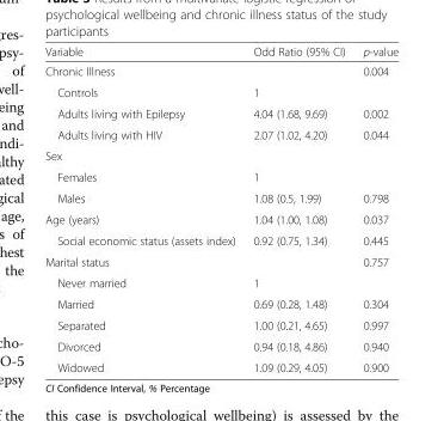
<table><thead><tr><td>Variable</td><td>Odd Ratio (95% CI)</td><td>p-value</td></tr></thead><tbody><tr><td>Chronic Illness</td><td></td><td>0.004</td></tr><tr><td>Controls</td><td>1</td><td></td></tr><tr><td>Adults living with Epilepsy</td><td>4.04 (1.68, 9.69)</td><td>0.002</td></tr><tr><td>Adults living with HIV</td><td>2.07 (1.02, 4.20)</td><td>0.044</td></tr><tr><td colspan="3">Sex</td></tr><tr><td>Females</td><td>1</td><td></td></tr><tr><td>Males</td><td>1.08 (0.5, 1.99)</td><td>0.798</td></tr><tr><td>Age (years)</td><td>1.04 (1.00, 1.08)</td><td>0.037</td></tr><tr><td>Social economic status (assets index)</td><td>0.92 (0.75, 1.34)</td><td>0.445</td></tr><tr><td>Marital status</td><td></td><td>0.757</td></tr><tr><td>Never married</td><td>1</td><td></td></tr><tr><td>Married</td><td>0.69 (0.28, 1.48)</td><td>0.304</td></tr><tr><td>Separated</td><td>1.00 (0.21, 4.65)</td><td>0.997</td></tr><tr><td>Divorced</td><td>0.94 (0.18, 4.86)</td><td>0.940</td></tr><tr><td>Widowed</td><td>1.09 (0.29, 4.05)</td><td>0.900</td></tr></tbody></table>